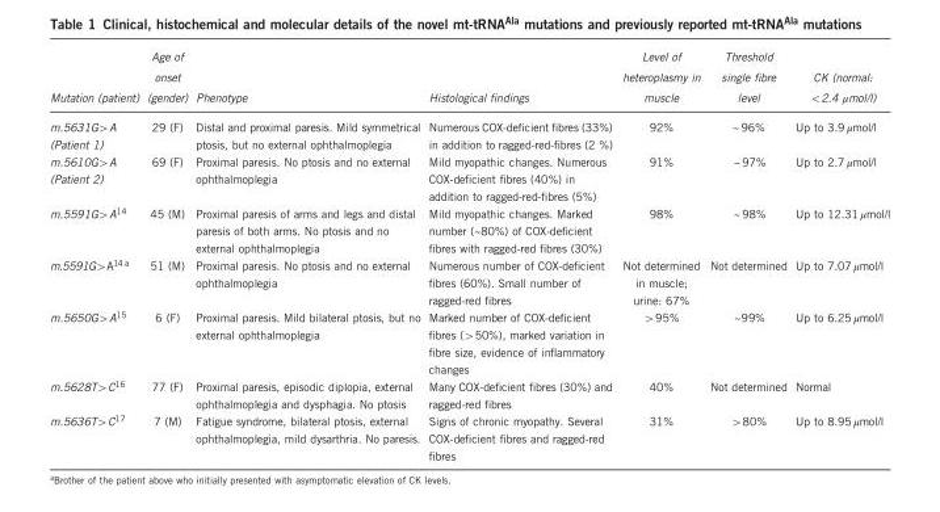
<table><thead><tr><td>Mutation (patient)</td><td>Age of onset (gender)</td><td>Phenotype</td><td>Histological findings</td><td>Level of heteroplasmy in muscle</td><td>Threshold single fibre level</td><td>CK (normal: &lt;2.4 μmol/l)</td></tr></thead><tbody><tr><td>m.5631G&gt;A (Patient 1)</td><td>29 (F)</td><td>Distal and proximal paresis. Mild symmetrical ptosis, but no external ophthalmoplegia</td><td>Numerous COX-deficient fibres (33%) in addition to ragged-red-fibres (2 %)</td><td>92%</td><td>~ 96%</td><td>Up to 3.9 μmol/l</td></tr><tr><td>m.5610G&gt;A (Patient 2)</td><td>69 (F)</td><td>Proximal paresis. No ptosis and no external ophthalmoplegia</td><td>Mild myopathic changes. Numerous COX-deficient fibres (40%) in addition to ragged-red-fibres (5%)</td><td>91%</td><td>~ 97%</td><td>Up to 2.7 μmol/l</td></tr><tr><td>m.5591G&gt;A<sup>14</sup></td><td>45 (M)</td><td>Proximal paresis of arms and legs and distal paresis of both arms. No ptosis and no external ophthalmoplegia</td><td>Mild myopathic changes. Marked number (~80%) of COX-deficient fibres with ragged-red fibres (30%)</td><td>98%</td><td>~ 98%</td><td>Up to 12.31 μmol/l</td></tr><tr><td>m.5591G&gt;A<sup>14 a</sup></td><td>51 (M)</td><td>Proximal paresis. No ptosis and no external ophthalmoplegia</td><td>Numerous number of COX-deficient fibres (60%). Small number of ragged-red fibres</td><td>Not determined in muscle; urine: 67%</td><td>Not determined</td><td>Up to 7.07 μmol/l</td></tr><tr><td>m.5650G&gt;A<sup>15</sup></td><td>6 (F)</td><td>Proximal paresis. Mild bilateral ptosis, but no external ophthalmoplegia</td><td>Marked number of COX-deficient fibres (&gt;50%), marked variation in fibre size, evidence of inflammatory changes</td><td>&gt;95%</td><td>~99%</td><td>Up to 6.25 μmol/l</td></tr><tr><td>m.5628T&gt;C<sup>16</sup></td><td>77 (F)</td><td>Proximal paresis, episodic diplopia, external ophthalmoplegia and dysphagia. No ptosis</td><td>Many COX-deficient fibres (30%) and ragged-red fibres</td><td>40%</td><td>Not determined</td><td>Normal</td></tr><tr><td>m.5636T&gt;C<sup>17</sup></td><td>7 (M)</td><td>Fatigue syndrome, bilateral ptosis, external ophthalmoplegia, mild dysarthria. No paresis.</td><td>Signs of chronic myopathy. Several COX-deficient fibres and ragged-red fibres</td><td>31%</td><td>&gt;80%</td><td>Up to 8.95 μmol/l</td></tr></tbody></table>